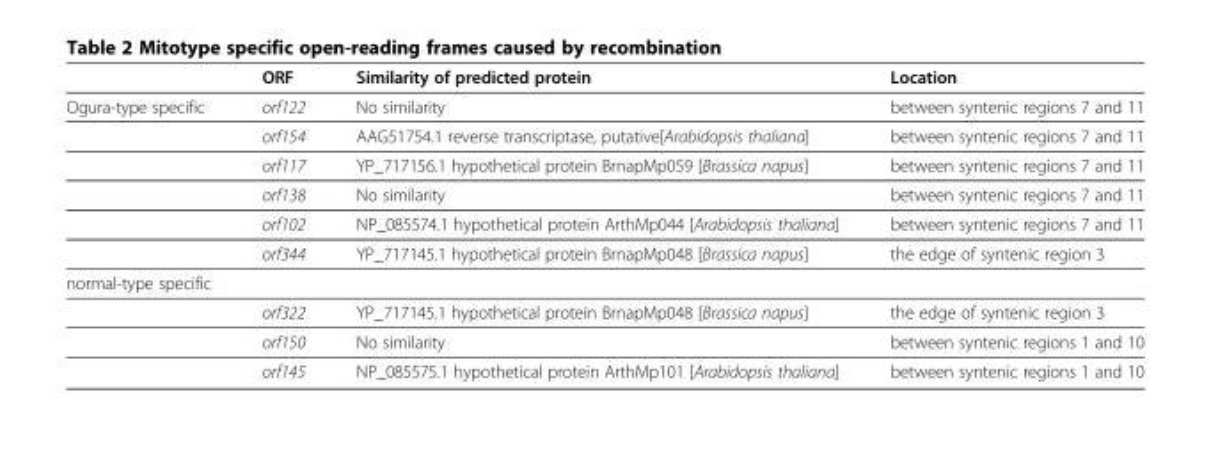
<table><thead><tr><td></td><td>ORF</td><td>Similarity of predicted protein</td><td>Location</td></tr></thead><tbody><tr><td rowspan="6">Ogura-type specific</td><td>orf122</td><td>No similarity</td><td>between syntenic regions 7 and 11</td></tr><tr><td>orf154</td><td>AAG51754.1 reverse transcriptase, putative[Arabidopsis thaliana]</td><td>between syntenic regions 7 and 11</td></tr><tr><td>orf117</td><td>YP_717156.1 hypothetical protein BrnapMp059 [Brassica napus]</td><td>between syntenic regions 7 and 11</td></tr><tr><td>orf138</td><td>No similarity</td><td>between syntenic regions 7 and 11</td></tr><tr><td>orf102</td><td>NP_085574.1 hypothetical protein ArthMp044 [Arabidopsis thaliana]</td><td>between syntenic regions 7 and 11</td></tr><tr><td>orf344</td><td>YP_717145.1 hypothetical protein BrnapMp048 [Brassica napus]</td><td>the edge of syntenic region 3</td></tr><tr><td colspan="4">normal-type specific</td></tr><tr><td></td><td>orf322</td><td>YP_717145.1 hypothetical protein BrnapMp048 [Brassica napus]</td><td>the edge of syntenic region 3</td></tr><tr><td></td><td>orf150</td><td>No similarity</td><td>between syntenic regions 1 and 10</td></tr><tr><td></td><td>orf145</td><td>NP_085575.1 hypothetical protein ArthMp101 [Arabidopsis thaliana]</td><td>between syntenic regions 1 and 10</td></tr></tbody></table>